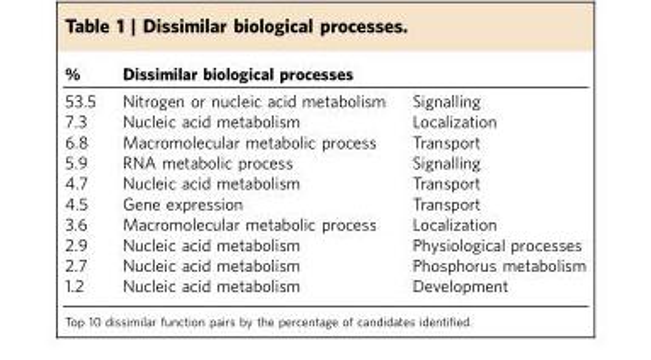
<table><thead><tr><td rowspan="2">% 53.5</td><td colspan="2">Dissimilar biological processes</td></tr><tr><td>Nitrogen or nucleic acid metabolism</td><td>Signalling</td></tr></thead><tbody><tr><td>7.3</td><td>Nucleic acid metabolism</td><td>Localization</td></tr><tr><td>6.8</td><td>Macromolecular metabolic process</td><td>Transport</td></tr><tr><td>5.9</td><td>RNA metabolic process</td><td>Signalling</td></tr><tr><td>4.7</td><td>Nucleic acid metabolism</td><td>Transport</td></tr><tr><td>4.5</td><td>Gene expression</td><td>Transport</td></tr><tr><td>3.6</td><td>Macromolecular metabolic process</td><td>Localization</td></tr><tr><td>2.9</td><td>Nucleic acid metabolism</td><td>Physiological processes</td></tr><tr><td>2.7</td><td>Nucleic acid metabolism</td><td>Phosphorus metabolism</td></tr><tr><td>1.2</td><td>Nucleic acid metabolism</td><td>Development</td></tr></tbody></table>